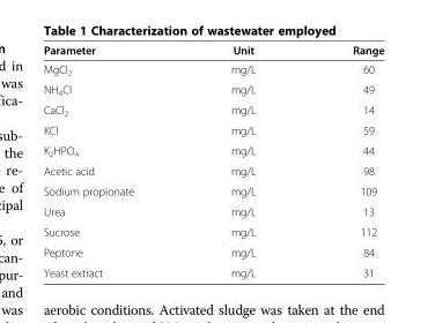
<table><thead><tr><td>Parameter</td><td>Unit</td><td>Range</td></tr></thead><tbody><tr><td>MgCl<sub>2</sub></td><td>mg/L</td><td>60</td></tr><tr><td>NH<sub>4</sub>Cl</td><td>mg/L</td><td>49</td></tr><tr><td>CaCl<sub>2</sub></td><td>mg/L</td><td>14</td></tr><tr><td>KCl</td><td>mg/L</td><td>59</td></tr><tr><td>K<sub>2</sub>HPO<sub>4</sub></td><td>mg/L</td><td>44</td></tr><tr><td>Acetic acid</td><td>mg/L</td><td>98</td></tr><tr><td>Sodium propionate</td><td>mg/L</td><td>109</td></tr><tr><td>Urea</td><td>mg/L</td><td>13</td></tr><tr><td>Sucrose</td><td>mg/L</td><td>112</td></tr><tr><td>Peptone</td><td>mg/L</td><td>84</td></tr><tr><td>Yeast extract</td><td>mg/L</td><td>31</td></tr></tbody></table>